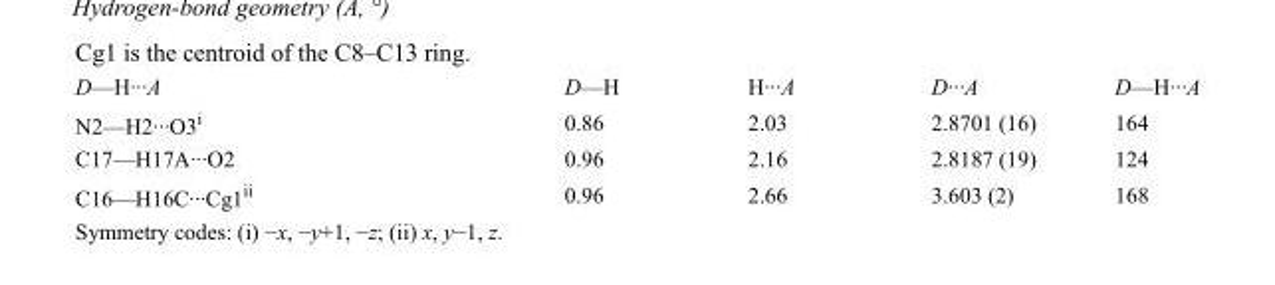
<table><tbody><tr><td>D—H···A</td><td>D—H</td><td>H···A</td><td>D···A</td><td>D—H···A</td></tr><tr><td>N2—H2···O3<sup>i</sup></td><td>0.86</td><td>2.03</td><td>2.8701 (16)</td><td>164</td></tr><tr><td>C17—H17A···O2</td><td>0.96</td><td>2.16</td><td>2.8187 (19)</td><td>124</td></tr><tr><td>C16—H16C···Cg1<sup>ii</sup></td><td>0.96</td><td>2.66</td><td>3.603 (2)</td><td>168</td></tr></tbody></table>